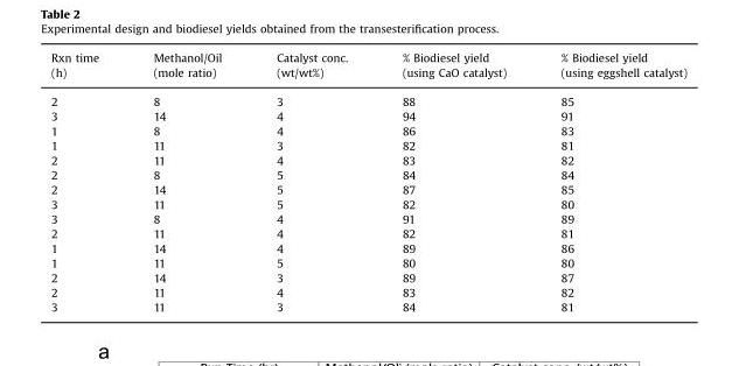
<table><thead><tr><td rowspan="2">Rxn time (h)</td><td rowspan="2">Methanol/Oil (mole ratio)</td><td rowspan="2">Catalyst conc. (wt/wt%)</td><td rowspan="2">% Biodiesel yield (using CaO catalyst)</td><td rowspan="2">% Biodiesel yield (using eggshell catalyst)</td></tr><tr></tr></thead><tbody><tr><td>2</td><td>8</td><td>3</td><td>88</td><td>85</td></tr><tr><td>3</td><td>14</td><td>4</td><td>94</td><td>91</td></tr><tr><td>1</td><td>8</td><td>4</td><td>86</td><td>83</td></tr><tr><td>1</td><td>11</td><td>3</td><td>82</td><td>81</td></tr><tr><td>2</td><td>11</td><td>4</td><td>83</td><td>82</td></tr><tr><td>2</td><td>8</td><td>5</td><td>84</td><td>84</td></tr><tr><td>2</td><td>14</td><td>5</td><td>87</td><td>85</td></tr><tr><td>3</td><td>11</td><td>5</td><td>82</td><td>80</td></tr><tr><td>3</td><td>8</td><td>4</td><td>91</td><td>89</td></tr><tr><td>2</td><td>11</td><td>4</td><td>82</td><td>81</td></tr><tr><td>1</td><td>14</td><td>4</td><td>89</td><td>86</td></tr><tr><td>1</td><td>11</td><td>5</td><td>80</td><td>80</td></tr><tr><td>2</td><td>14</td><td>3</td><td>89</td><td>87</td></tr><tr><td>2</td><td>11</td><td>4</td><td>83</td><td>82</td></tr><tr><td>3</td><td>11</td><td>3</td><td>84</td><td>81</td></tr></tbody></table>